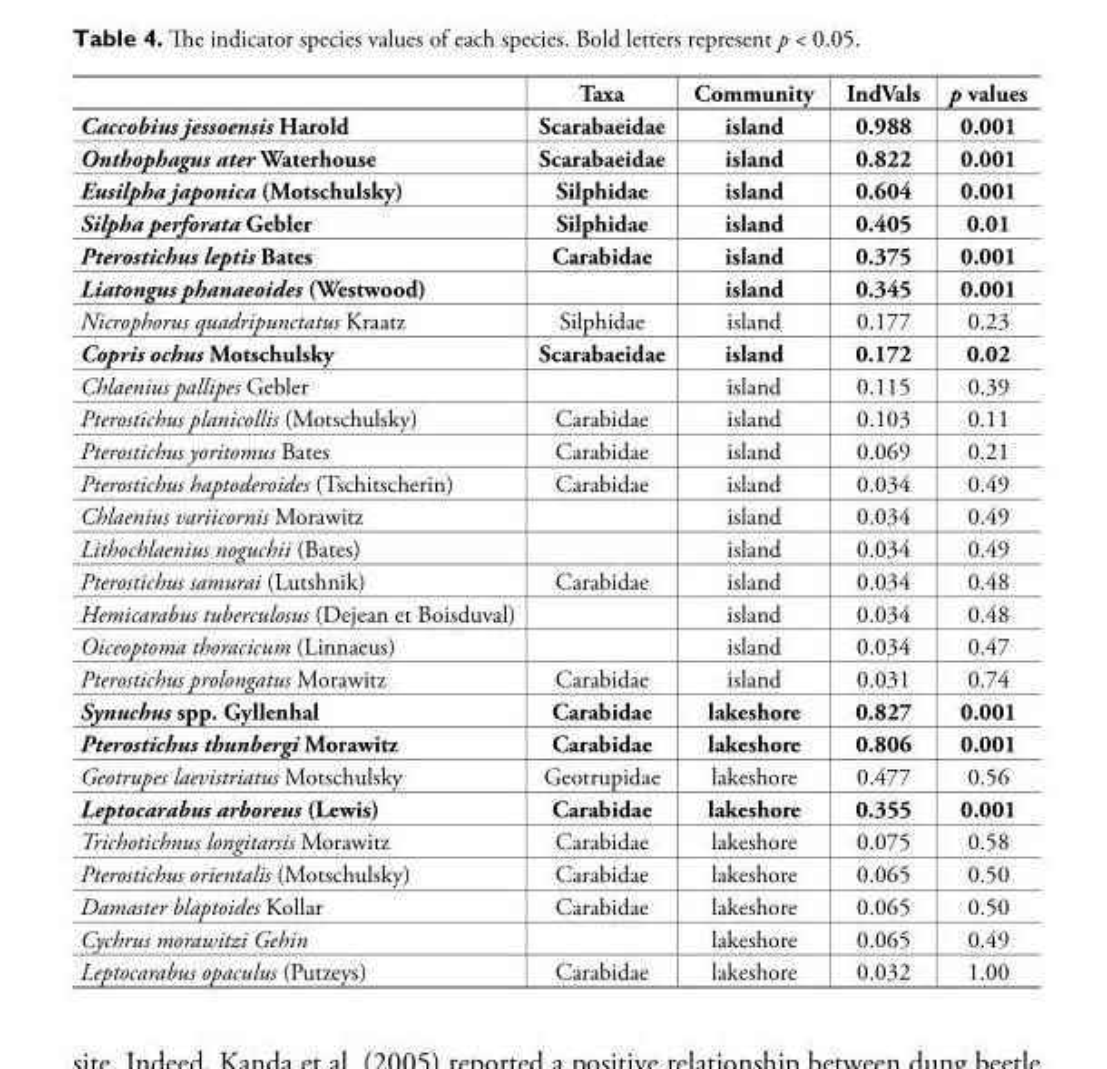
<table><thead><tr><td></td><td>Taxa</td><td>Community</td><td>IndVals</td><td>p values</td></tr></thead><tbody><tr><td>Caccobius jessoensis Harold</td><td>Scarabaeidae</td><td>island</td><td>0.988</td><td>0.001</td></tr><tr><td>Onthophagus ater Waterhouse</td><td>Scarabaeidae</td><td>island</td><td>0.822</td><td>0.001</td></tr><tr><td>Eusilpha japonica (Motschulsky)</td><td>Silphidae</td><td>island</td><td>0.604</td><td>0.001</td></tr><tr><td>Silpha perforata Gebler</td><td>Silphidae</td><td>island</td><td>0.405</td><td>0.01</td></tr><tr><td>Pterostichus leptis Bates</td><td>Carabidae</td><td>island</td><td>0.375</td><td>0.001</td></tr><tr><td>Liatongus phanaeoides (Westwood)</td><td></td><td>island</td><td>0.345</td><td>0.001</td></tr><tr><td>Nicrophorus quadripunctatus Kraatz</td><td>Silphidae</td><td>island</td><td>0.177</td><td>0.23</td></tr><tr><td>Copris ochus Motschulsky</td><td>Scarabaeidae</td><td>island</td><td>0.172</td><td>0.02</td></tr><tr><td>Chlaenius pallipes Gebler</td><td></td><td>island</td><td>0.115</td><td>0.39</td></tr><tr><td>Pterostichus planicollis (Motschulsky)</td><td>Carabidae</td><td>island</td><td>0.103</td><td>0.11</td></tr><tr><td>Pterostichus yoritomus Bates</td><td>Carabidae</td><td>island</td><td>0.069</td><td>0.21</td></tr><tr><td>Pterostichus haptoderoides (Tschitscherin)</td><td>Carabidae</td><td>island</td><td>0.034</td><td>0.49</td></tr><tr><td>Chlaenius variicornis Morawitz</td><td></td><td>island</td><td>0.034</td><td>0.49</td></tr><tr><td>Lithochlaenius noguchii (Bates)</td><td></td><td>island</td><td>0.034</td><td>0.49</td></tr><tr><td>Pterostichus samurai (Lutshnik)</td><td>Carabidae</td><td>island</td><td>0.034</td><td>0.48</td></tr><tr><td>Hemicarabus tuberculosus (Dejean et Boisduval)</td><td></td><td>island</td><td>0.034</td><td>0.48</td></tr><tr><td>Oiceoptoma thoracicum (Linnaeus)</td><td></td><td>island</td><td>0.034</td><td>0.47</td></tr><tr><td>Pterostichus prolongatus Morawitz</td><td>Carabidae</td><td>island</td><td>0.031</td><td>0.74</td></tr><tr><td>Synuchus spp. Gyllenhal</td><td>Carabidae</td><td>lakeshore</td><td>0.827</td><td>0.001</td></tr><tr><td>Pterostichus thunbergi Morawitz</td><td>Carabidae</td><td>lakeshore</td><td>0.806</td><td>0.001</td></tr><tr><td>Geotrupes laevistriatus Motschulsky</td><td>Geotrupidae</td><td>lakeshore</td><td>0.477</td><td>0.56</td></tr><tr><td>Leptocarabus arboreus (Lewis)</td><td>Carabidae</td><td>lakeshore</td><td>0.355</td><td>0.001</td></tr><tr><td>Trichotichnus longitarsis Morawitz</td><td>Carabidae</td><td>lakeshore</td><td>0.075</td><td>0.58</td></tr><tr><td>Pterostichus orientalis (Motschulsky)</td><td>Carabidae</td><td>lakeshore</td><td>0.065</td><td>0.50</td></tr><tr><td>Damaster blaptoides Kollar</td><td>Carabidae</td><td>lakeshore</td><td>0.065</td><td>0.50</td></tr><tr><td>Cychrus morawitzi Gehin</td><td></td><td>lakeshore</td><td>0.065</td><td>0.49</td></tr><tr><td>Leptocarabus opaculus (Putzeys)</td><td>Carabidae</td><td>lakeshore</td><td>0.032</td><td>1.00</td></tr></tbody></table>